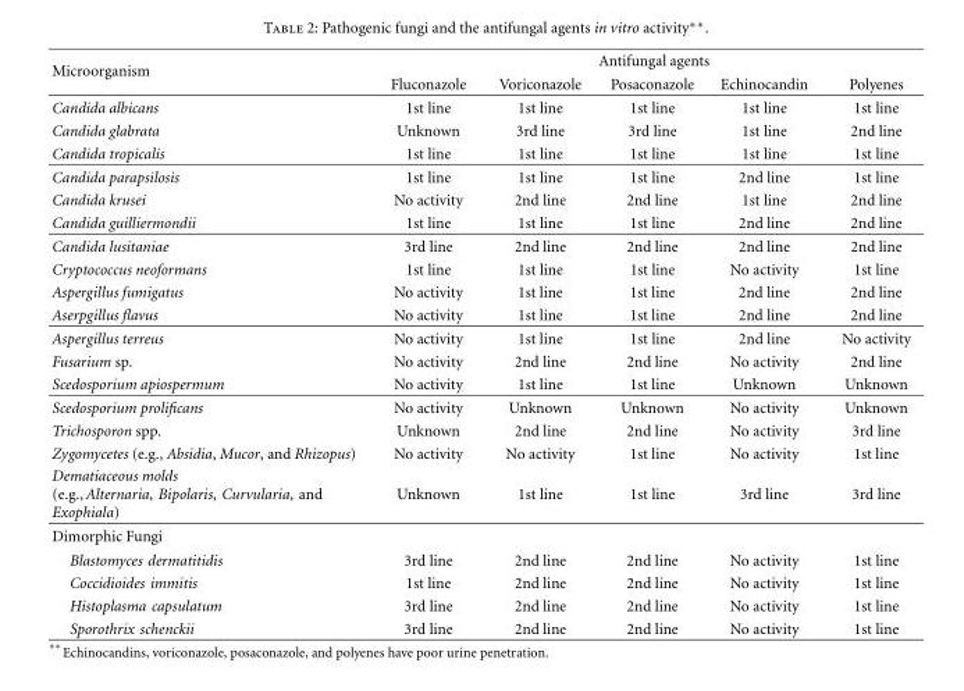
<table><thead><tr><td rowspan="2">Microorganism</td><td colspan="5">Antifungal agents</td></tr><tr><td>Fluconazole</td><td>Voriconazole</td><td>Posaconazole</td><td>Echinocandin</td><td>Polyenes</td></tr></thead><tbody><tr><td>Candida albicans</td><td>1st line</td><td>1st line</td><td>1st line</td><td>1st line</td><td>1st line</td></tr><tr><td>Candida glabrata</td><td>Unknown</td><td>3rd line</td><td>3rd line</td><td>1st line</td><td>2nd line</td></tr><tr><td>Candida tropicalis</td><td>1st line</td><td>1st line</td><td>1st line</td><td>1st line</td><td>1st line</td></tr><tr><td>Candida parapsilosis</td><td>1st line</td><td>1st line</td><td>1st line</td><td>2nd line</td><td>1st line</td></tr><tr><td>Candida krusei</td><td>No activity</td><td>2nd line</td><td>2nd line</td><td>1st line</td><td>2nd line</td></tr><tr><td>Candida guilliermondii</td><td>1st line</td><td>1st line</td><td>1st line</td><td>2nd line</td><td>2nd line</td></tr><tr><td>Candida lusitaniae</td><td>3rd line</td><td>2nd line</td><td>2nd line</td><td>2nd line</td><td>2nd line</td></tr><tr><td>Cryptococcus neoformans</td><td>1st line</td><td>1st line</td><td>1st line</td><td>No activity</td><td>1st line</td></tr><tr><td>Aspergillus fumigatus</td><td>No activity</td><td>1st line</td><td>1st line</td><td>2nd line</td><td>2nd line</td></tr><tr><td>Aserpgillus flavus</td><td>No activity</td><td>1st line</td><td>1st line</td><td>2nd line</td><td>2nd line</td></tr><tr><td>Aspergillus terreus</td><td>No activity</td><td>1st line</td><td>1st line</td><td>2nd line</td><td>No activity</td></tr><tr><td>Fusarium sp.</td><td>No activity</td><td>2nd line</td><td>2nd line</td><td>No activity</td><td>2nd line</td></tr><tr><td>Scedosporium apiospermum</td><td>No activity</td><td>1st line</td><td>1st line</td><td>Unknown</td><td>Unknown</td></tr><tr><td>Scedosporium prolificans</td><td>No activity</td><td>Unknown</td><td>Unknown</td><td>No activity</td><td>Unknown</td></tr><tr><td>Trichosporon spp.</td><td>Unknown</td><td>2nd line</td><td>2nd line</td><td>No activity</td><td>3rd line</td></tr><tr><td>Zygomycetes (e.g., Absidia, Mucor, and Rhizopus)</td><td>No activity</td><td>No activity</td><td>1st line</td><td>No activity</td><td>1st line</td></tr><tr><td>Dematiaceous molds (e.g., Alternaria, Bipolaris, Curvularia, and Exophiala)</td><td>Unknown</td><td>1st line</td><td>1st line</td><td>3rd line</td><td>3rd line</td></tr><tr><td colspan="6">Dimorphic Fungi</td></tr><tr><td>Blastomyces dermatitidis</td><td>3rd line</td><td>2nd line</td><td>2nd line</td><td>No activity</td><td>1st line</td></tr><tr><td>Coccidioides immitis</td><td>1st line</td><td>2nd line</td><td>2nd line</td><td>No activity</td><td>1st line</td></tr><tr><td>Histoplasma capsulatum</td><td>3rd line</td><td>2nd line</td><td>2nd line</td><td>No activity</td><td>1st line</td></tr><tr><td>Sporothrix schenckii</td><td>3rd line</td><td>2nd line</td><td>2nd line</td><td>No activity</td><td>1st line</td></tr></tbody></table>